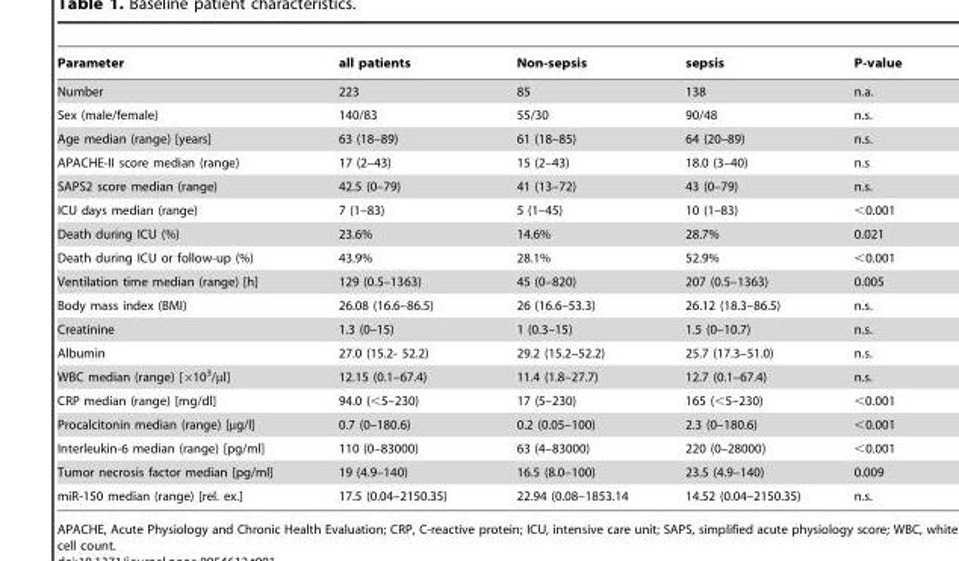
<table><thead><tr><td>Parameter</td><td>all patients</td><td>Non-sepsis</td><td>sepsis</td><td>P-value</td></tr></thead><tbody><tr><td>Number</td><td>223</td><td>85</td><td>138</td><td>n.a.</td></tr><tr><td>Sex (male/female)</td><td>140/83</td><td>55/30</td><td>90/48</td><td>n.s.</td></tr><tr><td>Age median (range) [years]</td><td>63 (18–89)</td><td>61 (18–85)</td><td>64 (20–89)</td><td>n.s.</td></tr><tr><td>APACHE-II score median (range)</td><td>17 (2–43)</td><td>15 (2–43)</td><td>18.0 (3–40)</td><td>n.s</td></tr><tr><td>SAPS2 score median (range)</td><td>42.5 (0–79)</td><td>41 (13–72)</td><td>43 (0–79)</td><td>n.s.</td></tr><tr><td>ICU days median (range)</td><td>7 (1–83)</td><td>5 (1–45)</td><td>10 (1–83)</td><td>&lt;0.001</td></tr><tr><td>Death during ICU (%)</td><td>23.6%</td><td>14.6%</td><td>28.7%</td><td>0.021</td></tr><tr><td>Death during ICU or follow-up (%)</td><td>43.9%</td><td>28.1%</td><td>52.9%</td><td>&lt;0.001</td></tr><tr><td>Ventilation time median (range) [h]</td><td>129 (0.5–1363)</td><td>45 (0–820)</td><td>207 (0.5–1363)</td><td>0.005</td></tr><tr><td>Body mass index (BMI)</td><td>26.08 (16.6–86.5)</td><td>26 (16.6–53.3)</td><td>26.12 (18.3–86.5)</td><td>n.s.</td></tr><tr><td>Creatinine</td><td>1.3 (0–15)</td><td>1 (0.3–15)</td><td>1.5 (0–10.7)</td><td>n.s.</td></tr><tr><td>Albumin</td><td>27.0 (15.2- 52.2)</td><td>29.2 (15.2–52.2)</td><td>25.7 (17.3–51.0)</td><td>n.s.</td></tr><tr><td>WBC median (range) [×10<sup>3</sup>/µl]</td><td>12.15 (0.1–67.4)</td><td>11.4 (1.8–27.7)</td><td>12.7 (0.1–67.4)</td><td>n.s.</td></tr><tr><td>CRP median (range) [mg/dl]</td><td>94.0 (&lt;5–230)</td><td>17 (5–230)</td><td>165 (&lt;5–230)</td><td>&lt;0.001</td></tr><tr><td>Procalcitonin median (range) [µg/l]</td><td>0.7 (0–180.6)</td><td>0.2 (0.05–100)</td><td>2.3 (0–180.6)</td><td>&lt;0.001</td></tr><tr><td>Interleukin-6 median (range) [pg/ml]</td><td>110 (0–83000)</td><td>63 (4–83000)</td><td>220 (0–28000)</td><td>&lt;0.001</td></tr><tr><td>Tumor necrosis factor median [pg/ml]</td><td>19 (4.9–140)</td><td>16.5 (8.0–100)</td><td>23.5 (4.9–140)</td><td>0.009</td></tr><tr><td>miR-150 median (range) [rel. ex.]</td><td>17.5 (0.04–2150.35)</td><td>22.94 (0.08–1853.14</td><td>14.52 (0.04–2150.35)</td><td>n.s.</td></tr></tbody></table>